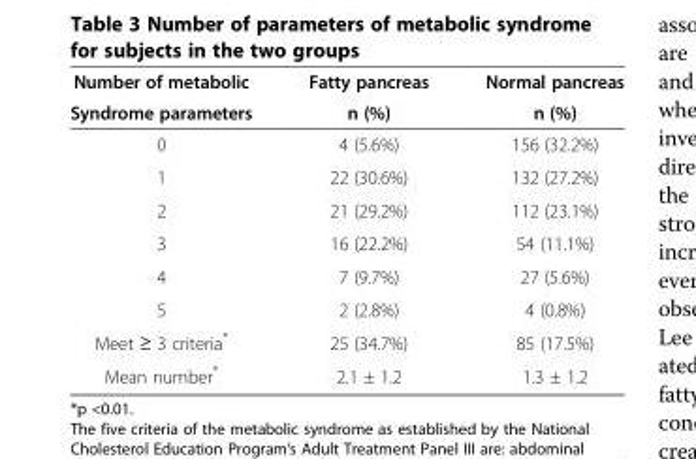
<table><thead><tr><td rowspan="2">Number of metabolic Syndrome parameters</td><td rowspan="2">Fatty pancreas n (%)</td><td rowspan="2">Normal pancreas n (%)</td></tr><tr></tr></thead><tbody><tr><td>0</td><td>4 (5.6%)</td><td>156 (32.2%)</td></tr><tr><td>1</td><td>22 (30.6%)</td><td>132 (27.2%)</td></tr><tr><td>2</td><td>21 (29.2%)</td><td>112 (23.1%)</td></tr><tr><td>3</td><td>16 (22.2%)</td><td>54 (11.1%)</td></tr><tr><td>4</td><td>7 (9.7%)</td><td>27 (5.6%)</td></tr><tr><td>5</td><td>2 (2.8%)</td><td>4 (0.8%)</td></tr><tr><td>Meet ≥ 3 criteria*</td><td>25 (34.7%)</td><td>85 (17.5%)</td></tr><tr><td>Mean number*</td><td>2.1 ± 1.2</td><td>1.3 ± 1.2</td></tr></tbody></table>